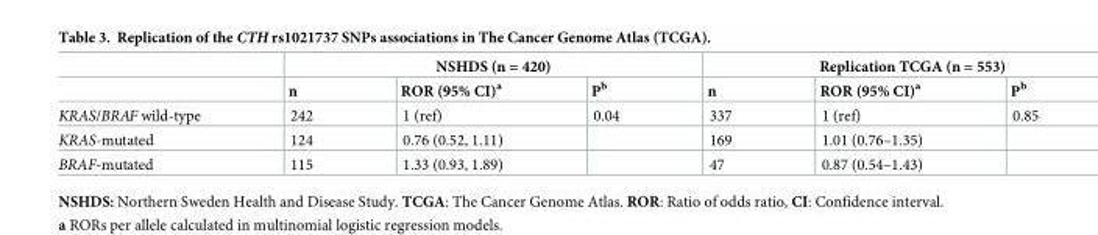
<table><thead><tr><td rowspan="2"></td><td colspan="3">NSHDS (n = 420)</td><td colspan="3">Replication TCGA (n = 553)</td></tr><tr><td>n</td><td>ROR (95% CI)<sup>a</sup></td><td>P<sup>b</sup></td><td>n</td><td>ROR (95% CI)<sup>a</sup></td><td>P<sup>b</sup></td></tr></thead><tbody><tr><td>KRAS/BRAF wild-type</td><td>242</td><td>1 (ref)</td><td>0.04</td><td>337</td><td>1 (ref)</td><td>0.85</td></tr><tr><td>KRAS-mutated</td><td>124</td><td>0.76 (0.52, 1.11)</td><td></td><td>169</td><td>1.01 (0.76–1.35)</td><td></td></tr><tr><td>BRAF-mutated</td><td>115</td><td>1.33 (0.93, 1.89)</td><td></td><td>47</td><td>0.87 (0.54–1.43)</td><td></td></tr></tbody></table>